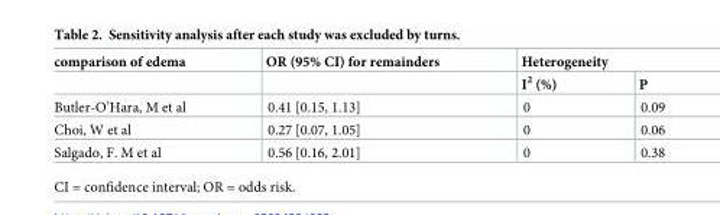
<table><thead><tr><td rowspan="2">comparison of edema</td><td rowspan="2">OR (95% CI) for remainders</td><td colspan="2">Heterogeneity</td></tr><tr><td>I<sup>2</sup> (%)</td><td>P</td></tr></thead><tbody><tr><td>Butler-O’Hara, M et al</td><td>0.41 [0.15, 1.13]</td><td>0</td><td>0.09</td></tr><tr><td>Choi, W et al</td><td>0.27 [0.07, 1.05]</td><td>0</td><td>0.06</td></tr><tr><td>Salgado, F. M et al</td><td>0.56 [0.16, 2.01]</td><td>0</td><td>0.38</td></tr></tbody></table>